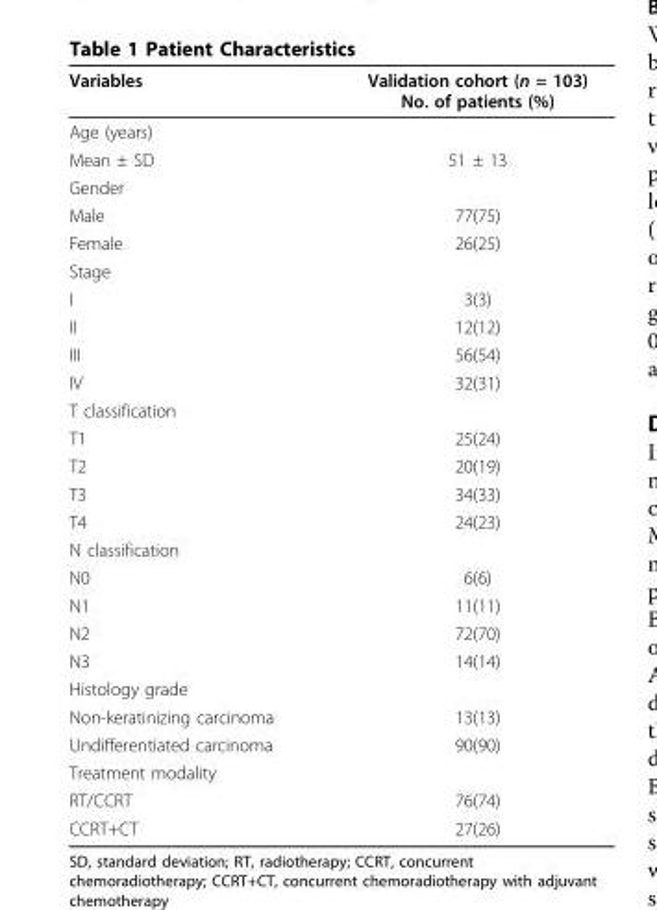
<table><thead><tr><td>Variables</td><td>Validation cohort (n = 103) No. of patients (%)</td></tr></thead><tbody><tr><td colspan="2">Age (years)</td></tr><tr><td>Mean ± SD</td><td>51 ± 13</td></tr><tr><td colspan="2">Gender</td></tr><tr><td>Male</td><td>77(75)</td></tr><tr><td>Female</td><td>26(25)</td></tr><tr><td colspan="2">Stage</td></tr><tr><td>I</td><td>3(3)</td></tr><tr><td>II</td><td>12(12)</td></tr><tr><td>III</td><td>56(54)</td></tr><tr><td>IV</td><td>32(31)</td></tr><tr><td colspan="2">T classification</td></tr><tr><td>T1</td><td>25(24)</td></tr><tr><td>T2</td><td>20(19)</td></tr><tr><td>T3</td><td>34(33)</td></tr><tr><td>T4</td><td>24(23)</td></tr><tr><td colspan="2">N classification</td></tr><tr><td>N0</td><td>6(6)</td></tr><tr><td>N1</td><td>11(11)</td></tr><tr><td>N2</td><td>72(70)</td></tr><tr><td>N3</td><td>14(14)</td></tr><tr><td colspan="2">Histology grade</td></tr><tr><td>Non-keratinizing carcinoma</td><td>13(13)</td></tr><tr><td>Undifferentiated carcinoma</td><td>90(90)</td></tr><tr><td colspan="2">Treatment modality</td></tr><tr><td>RT/CCRT</td><td>76(74)</td></tr><tr><td>CCRT+CT</td><td>27(26)</td></tr></tbody></table>